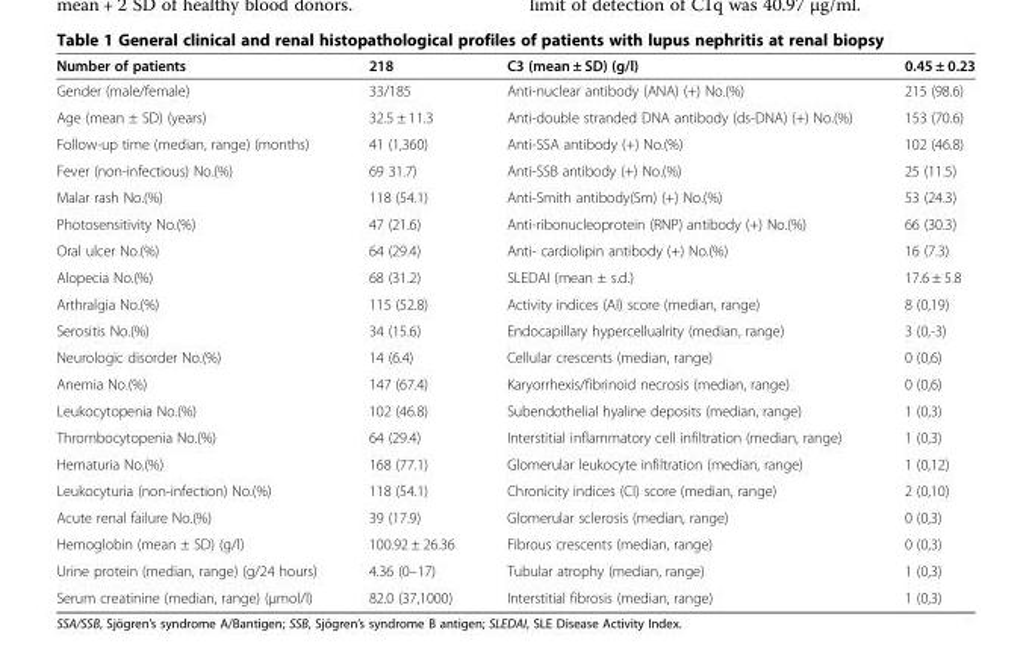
<table><thead><tr><td>Number of patients</td><td>218</td><td>C3 (mean ± SD) (g/l)</td><td>0.45 ± 0.23</td></tr></thead><tbody><tr><td>Gender (male/female)</td><td>33/185</td><td>Anti-nuclear antibody (ANA) (+) No.(%)</td><td>215 (98.6)</td></tr><tr><td>Age (mean ± SD) (years)</td><td>32.5 ± 11.3</td><td>Anti-double stranded DNA antibody (ds-DNA) (+) No.(%)</td><td>153 (70.6)</td></tr><tr><td>Follow-up time (median, range) (months)</td><td>41 (1,360)</td><td>Anti-SSA antibody (+) No.(%)</td><td>102 (46.8)</td></tr><tr><td>Fever (non-infectious) No.(%)</td><td>69 31.7)</td><td>Anti-SSB antibody (+) No.(%)</td><td>25 (11.5)</td></tr><tr><td>Malar rash No.(%)</td><td>118 (54.1)</td><td>Anti-Smith antibody(Sm) (+) No.(%)</td><td>53 (24.3)</td></tr><tr><td>Photosensitivity No.(%)</td><td>47 (21.6)</td><td>Anti-ribonucleoprotein (RNP) antibody (+) No.(%)</td><td>66 (30.3)</td></tr><tr><td>Oral ulcer No.(%)</td><td>64 (29.4)</td><td>Anti- cardiolipin antibody (+) No.(%)</td><td>16 (7.3)</td></tr><tr><td>Alopecia No.(%)</td><td>68 (31.2)</td><td>SLEDAI (mean ± s.d.)</td><td>17.6 ± 5.8</td></tr><tr><td>Arthralgia No.(%)</td><td>115 (52.8)</td><td>Activity indices (AI) score (median, range)</td><td>8 (0,19)</td></tr><tr><td>Serositis No.(%)</td><td>34 (15.6)</td><td>Endocapillary hypercellualrity (median, range)</td><td>3 (0,-3)</td></tr><tr><td>Neurologic disorder No.(%)</td><td>14 (6.4)</td><td>Cellular crescents (median, range)</td><td>0 (0,6)</td></tr><tr><td>Anemia No.(%)</td><td>147 (67.4)</td><td>Karyorrhexis/fibrinoid necrosis (median, range)</td><td>0 (0,6)</td></tr><tr><td>Leukocytopenia No.(%)</td><td>102 (46.8)</td><td>Subendothelial hyaline deposits (median, range)</td><td>1 (0,3)</td></tr><tr><td>Thrombocytopenia No.(%)</td><td>64 (29.4)</td><td>Interstitial inflammatory cell infiltration (median, range)</td><td>1 (0,3)</td></tr><tr><td>Hematuria No.(%)</td><td>168 (77.1)</td><td>Glomerular leukocyte infiltration (median, range)</td><td>1 (0,12)</td></tr><tr><td>Leukocyturia (non-infection) No.(%)</td><td>118 (54.1)</td><td>Chronicity indices (CI) score (median, range)</td><td>2 (0,10)</td></tr><tr><td>Acute renal failure No.(%)</td><td>39 (17.9)</td><td>Glomerular sclerosis (median, range)</td><td>0 (0,3)</td></tr><tr><td>Hemoglobin (mean ± SD) (g/l)</td><td>100.92 ± 26.36</td><td>Fibrous crescents (median, range)</td><td>0 (0,3)</td></tr><tr><td>Urine protein (median, range) (g/24 hours)</td><td>4.36 (0–17)</td><td>Tubular atrophy (median, range)</td><td>1 (0,3)</td></tr><tr><td>Serum creatinine (median, range) (μmol/l)</td><td>82.0 (37,1000)</td><td>Interstitial fibrosis (median, range)</td><td>1 (0,3)</td></tr></tbody></table>